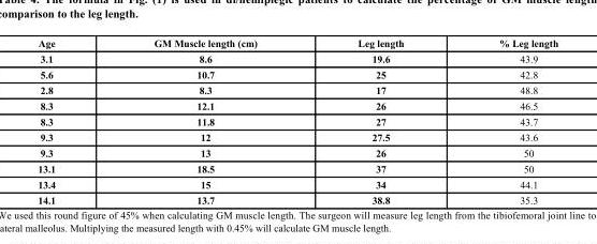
<table><thead><tr><td>Age</td><td>GM Muscle length (cm)</td><td>Leg length</td><td>% Leg length</td></tr></thead><tbody><tr><td>3.1</td><td>8.6</td><td>19.6</td><td>43.9</td></tr><tr><td>5.6</td><td>10.7</td><td>25</td><td>42.8</td></tr><tr><td>2.8</td><td>8.3</td><td>17</td><td>48.8</td></tr><tr><td>8.3</td><td>12.1</td><td>26</td><td>46.5</td></tr><tr><td>8.3</td><td>11.8</td><td>27</td><td>43.7</td></tr><tr><td>9.3</td><td>12</td><td>27.5</td><td>43.6</td></tr><tr><td>9.3</td><td>13</td><td>26</td><td>50</td></tr><tr><td>13.1</td><td>18.5</td><td>37</td><td>50</td></tr><tr><td>13.4</td><td>15</td><td>34</td><td>44.1</td></tr><tr><td>14.1</td><td>13.7</td><td>38.8</td><td>35.3</td></tr></tbody></table>